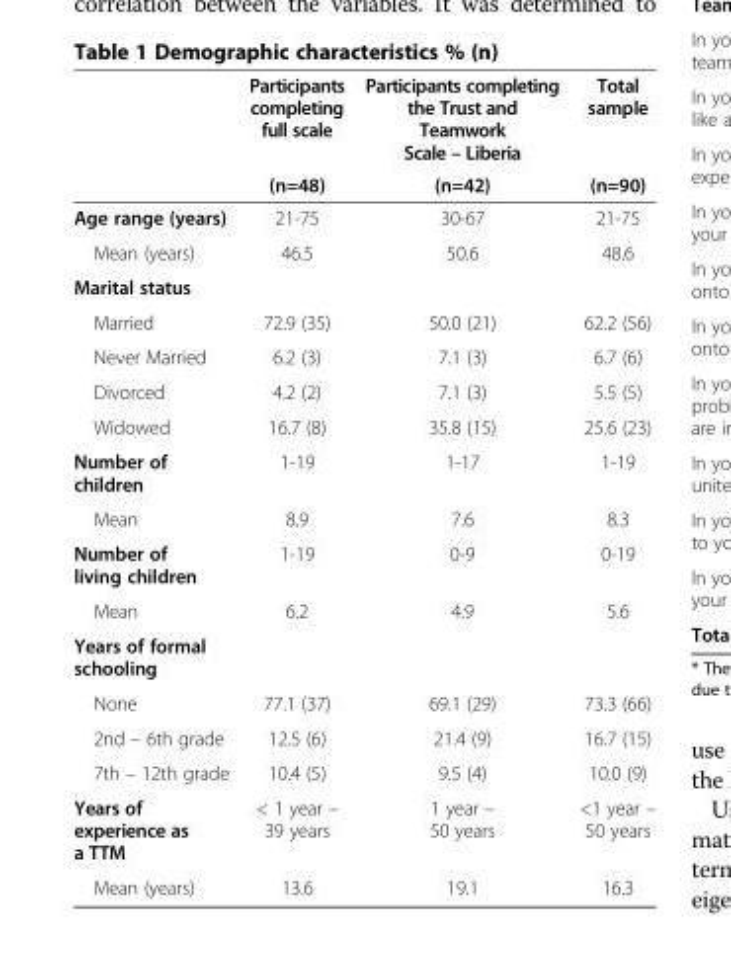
<table><thead><tr><td rowspan="2"></td><td rowspan="2">Participants completing full scale (n=48)</td><td rowspan="2">Participants completing the Trust and Teamwork Scale – Liberia (n=42)</td><td rowspan="2">Total sample (n=90)</td></tr><tr></tr></thead><tbody><tr><td>Age range (years)</td><td>21-75</td><td>30-67</td><td>21-75</td></tr><tr><td>Mean (years)</td><td>46.5</td><td>50.6</td><td>48.6</td></tr><tr><td colspan="4">Marital status</td></tr><tr><td>Married</td><td>72.9 (35)</td><td>50.0 (21)</td><td>62.2 (56)</td></tr><tr><td>Never Married</td><td>6.2 (3)</td><td>7.1 (3)</td><td>6.7 (6)</td></tr><tr><td>Divorced</td><td>4.2 (2)</td><td>7.1 (3)</td><td>5.5 (5)</td></tr><tr><td>Widowed</td><td>16.7 (8)</td><td>35.8 (15)</td><td>25.6 (23)</td></tr><tr><td>Number of children</td><td>1-19</td><td>1-17</td><td>1-19</td></tr><tr><td>Mean</td><td>8.9</td><td>7.6</td><td>8.3</td></tr><tr><td>Number of living children</td><td>1-19</td><td>0-9</td><td>0-19</td></tr><tr><td>Mean</td><td>6.2</td><td>4.9</td><td>5.6</td></tr><tr><td colspan="4">Years of formal schooling</td></tr><tr><td>None</td><td>77.1 (37)</td><td>69.1 (29)</td><td>73.3 (66)</td></tr><tr><td>2nd – 6th grade</td><td>12.5 (6)</td><td>21.4 (9)</td><td>16.7 (15)</td></tr><tr><td>7th – 12th grade</td><td>10.4 (5)</td><td>9.5 (4)</td><td>10.0 (9)</td></tr><tr><td>Years of experience as a TTM</td><td>&lt; 1 year – 39 years</td><td>1 year – 50 years</td><td>&lt;1 year – 50 years</td></tr><tr><td>Mean (years)</td><td>13.6</td><td>19.1</td><td>16.3</td></tr></tbody></table>